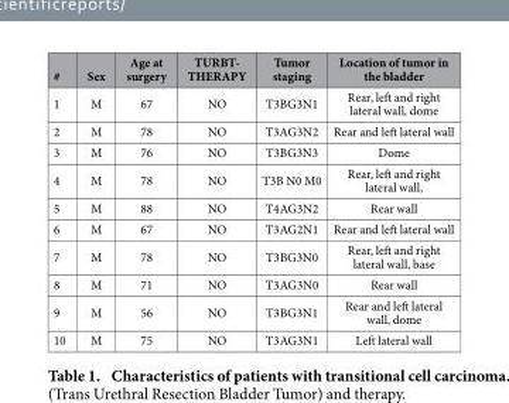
<table><thead><tr><td>#</td><td>Sex</td><td>Age at surgery</td><td>TURBT- THERAPY</td><td>Tumor staging</td><td>Location of tumor in the bladder</td></tr></thead><tbody><tr><td>1</td><td>M</td><td>67</td><td>NO</td><td>T3BG3N1</td><td>Rear, left and right lateral wall, dome</td></tr><tr><td>2</td><td>M</td><td>78</td><td>NO</td><td>T3AG3N2</td><td>Rear and left lateral wall</td></tr><tr><td>3</td><td>M</td><td>76</td><td>NO</td><td>T3BG3N3</td><td>Dome</td></tr><tr><td>4</td><td>M</td><td>78</td><td>NO</td><td>T3B N0 M0</td><td>Rear, left and right lateral wall,</td></tr><tr><td>5</td><td>M</td><td>88</td><td>NO</td><td>T4AG3N2</td><td>Rear wall</td></tr><tr><td>6</td><td>M</td><td>67</td><td>NO</td><td>T3AG2N1</td><td>Rear and left lateral wall</td></tr><tr><td>7</td><td>M</td><td>78</td><td>NO</td><td>T3BG3N0</td><td>Rear, left and right lateral wall, base</td></tr><tr><td>8</td><td>M</td><td>71</td><td>NO</td><td>T3AG3N0</td><td>Rear wall</td></tr><tr><td>9</td><td>M</td><td>56</td><td>NO</td><td>T3BG3N1</td><td>Rear and left lateral wall, dome</td></tr><tr><td>10</td><td>M</td><td>75</td><td>NO</td><td>T3AG3N1</td><td>Left lateral wall</td></tr></tbody></table>